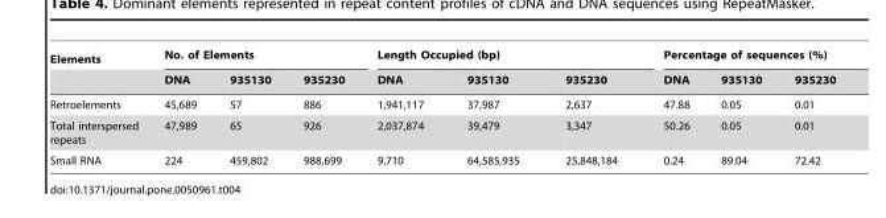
<table><thead><tr><td rowspan="2">Elements</td><td colspan="3">No. of Elements</td><td colspan="3">Length Occupied (bp)</td><td colspan="3">Percentage of sequences (%)</td></tr><tr><td>DNA</td><td>935130</td><td>935230</td><td>DNA</td><td>935130</td><td>935230</td><td>DNA</td><td>935130</td><td>935230</td></tr></thead><tbody><tr><td>Retroelements</td><td>45,689</td><td>57</td><td>886</td><td>1,941,117</td><td>37,987</td><td>2,637</td><td>47.88</td><td>0.05</td><td>0.01</td></tr><tr><td>Total interspersed repeats</td><td>47,989</td><td>65</td><td>926</td><td>2,037,874</td><td>39,479</td><td>3,347</td><td>50.26</td><td>0.05</td><td>0.01</td></tr><tr><td>Small RNA</td><td>224</td><td>459,802</td><td>988,699</td><td>9,710</td><td>64,585,935</td><td>25,848,184</td><td>0.24</td><td>89.04</td><td>72.42</td></tr></tbody></table>